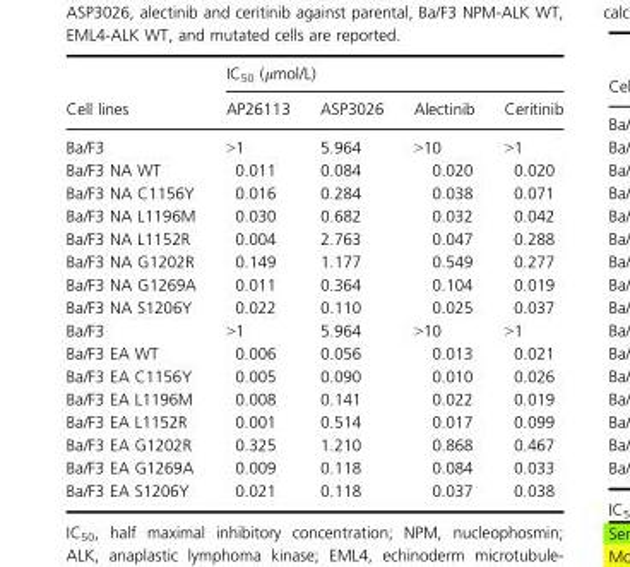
<table><thead><tr><td rowspan="2">Cell lines</td><td colspan="4">IC<sub>50</sub> (μmol/L)</td></tr><tr><td>AP26113</td><td>ASP3026</td><td>Alectinib</td><td>Ceritinib</td></tr></thead><tbody><tr><td>Ba/F3</td><td>&gt;1</td><td>5.964</td><td>&gt;10</td><td>&gt;1</td></tr><tr><td>Ba/F3 NA WT</td><td>0.011</td><td>0.084</td><td>0.020</td><td>0.020</td></tr><tr><td>Ba/F3 NA C1156Y</td><td>0.016</td><td>0.284</td><td>0.038</td><td>0.071</td></tr><tr><td>Ba/F3 NA L1196M</td><td>0.030</td><td>0.682</td><td>0.032</td><td>0.042</td></tr><tr><td>Ba/F3 NA L1152R</td><td>0.004</td><td>2.763</td><td>0.047</td><td>0.288</td></tr><tr><td>Ba/F3 NA G1202R</td><td>0.149</td><td>1.177</td><td>0.549</td><td>0.277</td></tr><tr><td>Ba/F3 NA G1269A</td><td>0.011</td><td>0.364</td><td>0.104</td><td>0.019</td></tr><tr><td>Ba/F3 NA S1206Y</td><td>0.022</td><td>0.110</td><td>0.025</td><td>0.037</td></tr><tr><td>Ba/F3</td><td>&gt;1</td><td>5.964</td><td>&gt;10</td><td>&gt;1</td></tr><tr><td>Ba/F3 EA WT</td><td>0.006</td><td>0.056</td><td>0.013</td><td>0.021</td></tr><tr><td>Ba/F3 EA C1156Y</td><td>0.005</td><td>0.090</td><td>0.010</td><td>0.026</td></tr><tr><td>Ba/F3 EA L1196M</td><td>0.008</td><td>0.141</td><td>0.022</td><td>0.019</td></tr><tr><td>Ba/F3 EA L1152R</td><td>0.001</td><td>0.514</td><td>0.017</td><td>0.099</td></tr><tr><td>Ba/F3 EA G1202R</td><td>0.325</td><td>1.210</td><td>0.868</td><td>0.467</td></tr><tr><td>Ba/F3 EA G1269A</td><td>0.009</td><td>0.118</td><td>0.084</td><td>0.033</td></tr><tr><td>Ba/F3 EA S1206Y</td><td>0.021</td><td>0.118</td><td>0.037</td><td>0.038</td></tr></tbody></table>